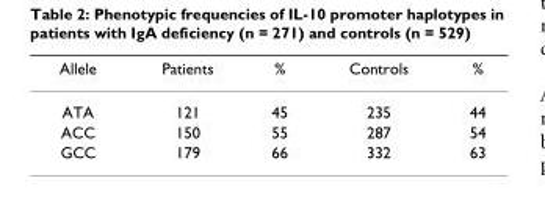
<table><thead><tr><td>Allele</td><td>Patients</td><td>%</td><td>Controls</td><td>%</td></tr></thead><tbody><tr><td>ATA</td><td>121</td><td>45</td><td>235</td><td>44</td></tr><tr><td>ACC</td><td>150</td><td>55</td><td>287</td><td>54</td></tr><tr><td>GCC</td><td>179</td><td>66</td><td>332</td><td>63</td></tr></tbody></table>